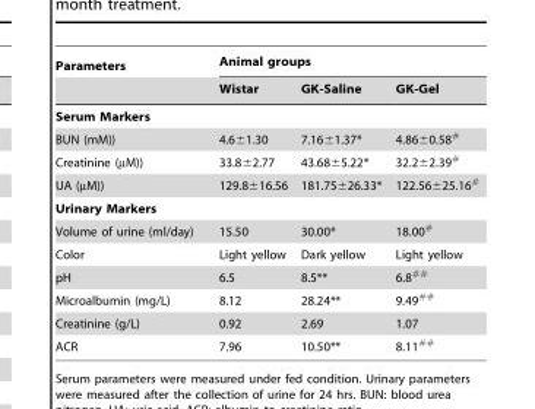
<table><thead><tr><td rowspan="2">Parameters</td><td colspan="3">Animal groups</td></tr><tr><td>Wistar</td><td>GK-Saline</td><td>GK-Gel</td></tr></thead><tbody><tr><td colspan="4">Serum Markers</td></tr><tr><td>BUN (mM))</td><td>4.6±1.30</td><td>7.16±1.37*</td><td>4.86±0.58<sup>#</sup></td></tr><tr><td>Creatinine (µM))</td><td>33.8±2.77</td><td>43.68±5.22*</td><td>32.2±2.39<sup>#</sup></td></tr><tr><td>UA (µM))</td><td>129.8±16.56</td><td>181.75±26.33*</td><td>122.56±25.16<sup>#</sup></td></tr><tr><td colspan="4">Urinary Markers</td></tr><tr><td>Volume of urine (ml/day)</td><td>15.50</td><td>30.00*</td><td>18.00<sup>#</sup></td></tr><tr><td>Color</td><td>Light yellow</td><td>Dark yellow</td><td>Light yellow</td></tr><tr><td>pH</td><td>6.5</td><td>8.5**</td><td>6.8<sup>##</sup></td></tr><tr><td>Microalbumin (mg/L)</td><td>8.12</td><td>28.24**</td><td>9.49<sup>##</sup></td></tr><tr><td>Creatinine (g/L)</td><td>0.92</td><td>2.69</td><td>1.07</td></tr><tr><td>ACR</td><td>7.96</td><td>10.50**</td><td>8.11<sup>##</sup></td></tr></tbody></table>